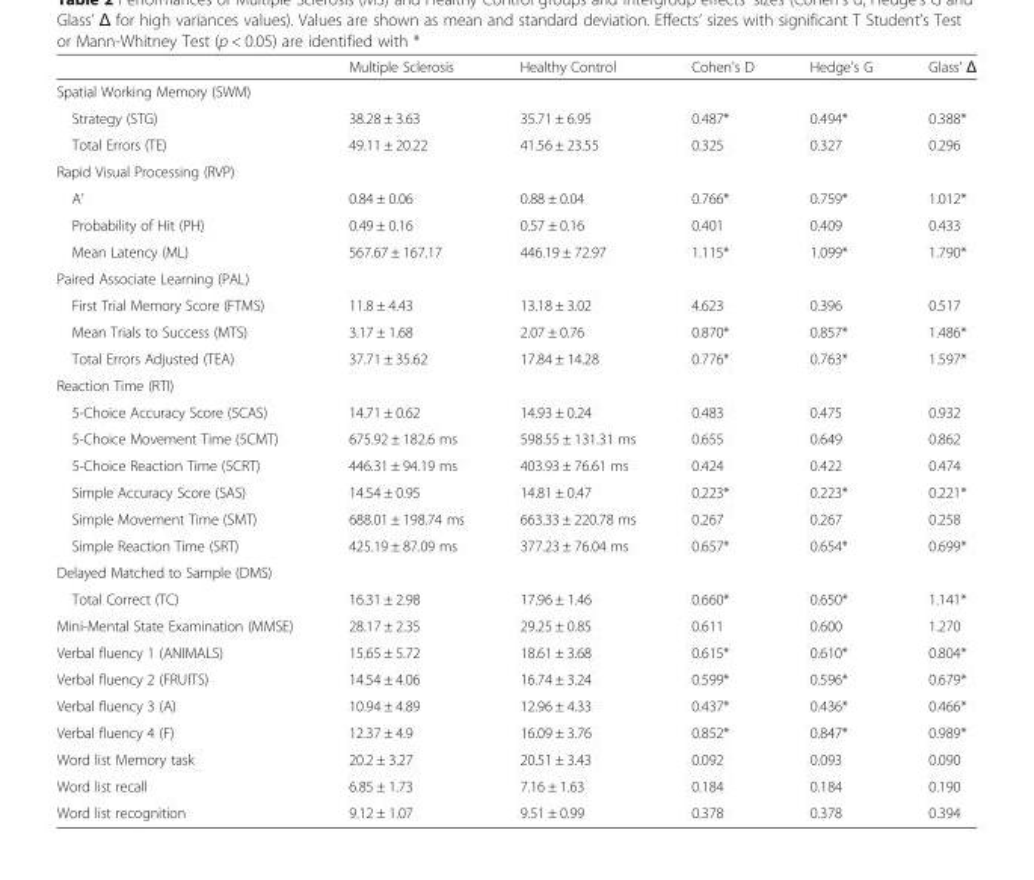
<table><thead><tr><td></td><td>Multiple Sclerosis</td><td>Healthy Control</td><td>Cohen&#x27;s D</td><td>Hedge&#x27;s G</td><td>Glass&#x27; Δ</td></tr></thead><tbody><tr><td colspan="6">Spatial Working Memory (SWM)</td></tr><tr><td>Strategy (STG)</td><td>38.28 ± 3.63</td><td>35.71 ± 6.95</td><td>0.487*</td><td>0.494*</td><td>0.388*</td></tr><tr><td>Total Errors (TE)</td><td>49.11 ± 20.22</td><td>41.56 ± 23.55</td><td>0.325</td><td>0.327</td><td>0.296</td></tr><tr><td colspan="6">Rapid Visual Processing (RVP)</td></tr><tr><td>A’</td><td>0.84 ± 0.06</td><td>0.88 ± 0.04</td><td>0.766*</td><td>0.759*</td><td>1.012*</td></tr><tr><td>Probability of Hit (PH)</td><td>0.49 ± 0.16</td><td>0.57 ± 0.16</td><td>0.401</td><td>0.409</td><td>0.433</td></tr><tr><td>Mean Latency (ML)</td><td>567.67 ± 167.17</td><td>446.19 ± 72.97</td><td>1.115*</td><td>1.099*</td><td>1.790*</td></tr><tr><td colspan="6">Paired Associate Learning (PAL)</td></tr><tr><td>First Trial Memory Score (FTMS)</td><td>11.8 ± 4.43</td><td>13.18 ± 3.02</td><td>4.623</td><td>0.396</td><td>0.517</td></tr><tr><td>Mean Trials to Success (MTS)</td><td>3.17 ± 1.68</td><td>2.07 ± 0.76</td><td>0.870*</td><td>0.857*</td><td>1.486*</td></tr><tr><td>Total Errors Adjusted (TEA)</td><td>37.71 ± 35.62</td><td>17.84 ± 14.28</td><td>0.776*</td><td>0.763*</td><td>1.597*</td></tr><tr><td colspan="6">Reaction Time (RTI)</td></tr><tr><td>5-Choice Accuracy Score (5CAS)</td><td>14.71 ± 0.62</td><td>14.93 ± 0.24</td><td>0.483</td><td>0.475</td><td>0.932</td></tr><tr><td>5-Choice Movement Time (5CMT)</td><td>675.92 ± 182.6 ms</td><td>598.55 ± 131.31 ms</td><td>0.655</td><td>0.649</td><td>0.862</td></tr><tr><td>5-Choice Reaction Time (5CRT)</td><td>446.31 ± 94.19 ms</td><td>403.93 ± 76.61 ms</td><td>0.424</td><td>0.422</td><td>0.474</td></tr><tr><td>Simple Accuracy Score (SAS)</td><td>14.54 ± 0.95</td><td>14.81 ± 0.47</td><td>0.223*</td><td>0.223*</td><td>0.221*</td></tr><tr><td>Simple Movement Time (SMT)</td><td>688.01 ± 198.74 ms</td><td>663.33 ± 220.78 ms</td><td>0.267</td><td>0.267</td><td>0.258</td></tr><tr><td>Simple Reaction Time (SRT)</td><td>425.19 ± 87.09 ms</td><td>377.23 ± 76.04 ms</td><td>0.657*</td><td>0.654*</td><td>0.699*</td></tr><tr><td colspan="6">Delayed Matched to Sample (DMS)</td></tr><tr><td>Total Correct (TC)</td><td>16.31 ± 2.98</td><td>17.96 ± 1.46</td><td>0.660*</td><td>0.650*</td><td>1.141*</td></tr><tr><td>Mini-Mental State Examination (MMSE)</td><td>28.17 ± 2.35</td><td>29.25 ± 0.85</td><td>0.611</td><td>0.600</td><td>1.270</td></tr><tr><td>Verbal fluency 1 (ANIMALS)</td><td>15.65 ± 5.72</td><td>18.61 ± 3.68</td><td>0.615*</td><td>0.610*</td><td>0.804*</td></tr><tr><td>Verbal fluency 2 (FRUITS)</td><td>14.54 ± 4.06</td><td>16.74 ± 3.24</td><td>0.599*</td><td>0.596*</td><td>0.679*</td></tr><tr><td>Verbal fluency 3 (A)</td><td>10.94 ± 4.89</td><td>12.96 ± 4.33</td><td>0.437*</td><td>0.436*</td><td>0.466*</td></tr><tr><td>Verbal fluency 4 (F)</td><td>12.37 ± 4.9</td><td>16.09 ± 3.76</td><td>0.852*</td><td>0.847*</td><td>0.989*</td></tr><tr><td>Word list Memory task</td><td>20.2 ± 3.27</td><td>20.51 ± 3.43</td><td>0.092</td><td>0.093</td><td>0.090</td></tr><tr><td>Word list recall</td><td>6.85 ± 1.73</td><td>7.16 ± 1.63</td><td>0.184</td><td>0.184</td><td>0.190</td></tr><tr><td>Word list recognition</td><td>9.12 ± 1.07</td><td>9.51 ± 0.99</td><td>0.378</td><td>0.378</td><td>0.394</td></tr></tbody></table>